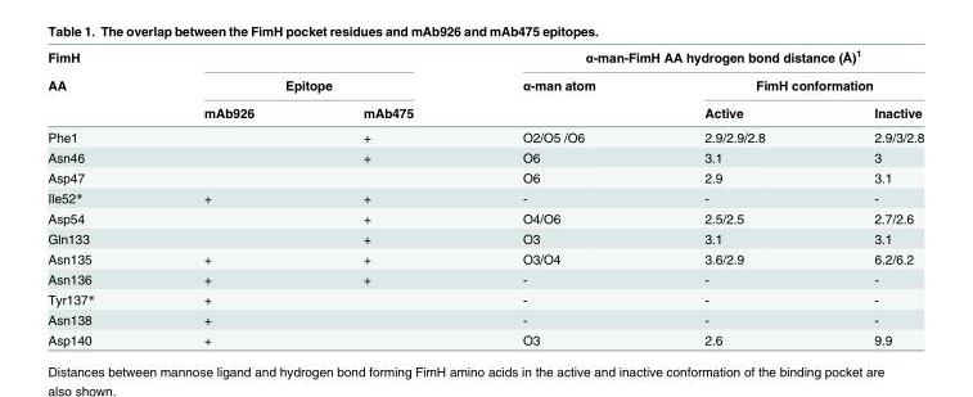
<table><thead><tr><td rowspan="3">FimH AA</td><td></td><td></td><td colspan="3">α-man-FimH AA hydrogen bond distance (Å)<sup>1</sup></td></tr><tr><td colspan="2">Epitope</td><td rowspan="2">α-man atom</td><td colspan="2">FimH conformation</td></tr><tr><td>mAb926</td><td>mAb475</td><td>Active</td><td>Inactive</td></tr></thead><tbody><tr><td>Phe1</td><td></td><td>+</td><td>O2/O5 /O6</td><td>2.9/2.9/2.8</td><td>2.9/3/2.8</td></tr><tr><td>Asn46</td><td></td><td>+</td><td>O6</td><td>3.1</td><td>3</td></tr><tr><td>Asp47</td><td></td><td></td><td>O6</td><td>2.9</td><td>3.1</td></tr><tr><td>Ile52*</td><td>+</td><td>+</td><td>-</td><td>-</td><td>-</td></tr><tr><td>Asp54</td><td></td><td>+</td><td>O4/O6</td><td>2.5/2.5</td><td>2.7/2.6</td></tr><tr><td>Gln133</td><td></td><td>+</td><td>O3</td><td>3.1</td><td>3.1</td></tr><tr><td>Asn135</td><td>+</td><td>+</td><td>O3/O4</td><td>3.6/2.9</td><td>6.2/6.2</td></tr><tr><td>Asn136</td><td>+</td><td>+</td><td>-</td><td>-</td><td>-</td></tr><tr><td>Tyr137*</td><td>+</td><td></td><td>-</td><td>-</td><td>-</td></tr><tr><td>Asn138</td><td>+</td><td></td><td>-</td><td>-</td><td>-</td></tr><tr><td>Asp140</td><td>+</td><td></td><td>O3</td><td>2.6</td><td>9.9</td></tr></tbody></table>